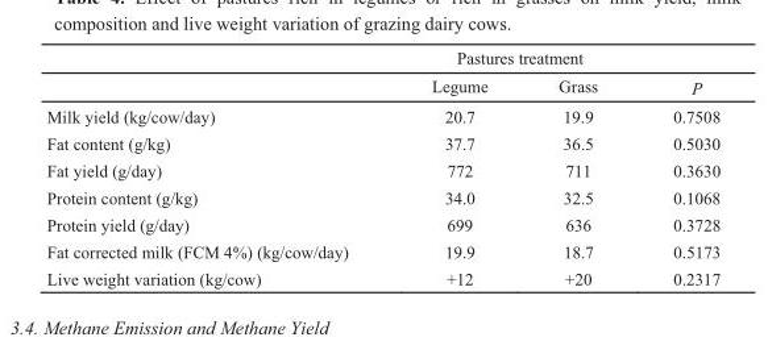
<table><thead><tr><td rowspan="2"></td><td colspan="2">Pastures treatment</td><td rowspan="2">P</td></tr><tr><td>Legume</td><td>Grass</td></tr></thead><tbody><tr><td>Milk yield (kg/cow/day)</td><td>20.7</td><td>19.9</td><td>0.7508</td></tr><tr><td>Fat content (g/kg)</td><td>37.7</td><td>36.5</td><td>0.5030</td></tr><tr><td>Fat yield (g/day)</td><td>772</td><td>711</td><td>0.3630</td></tr><tr><td>Protein content (g/kg)</td><td>34.0</td><td>32.5</td><td>0.1068</td></tr><tr><td>Protein yield (g/day)</td><td>699</td><td>636</td><td>0.3728</td></tr><tr><td>Fat corrected milk (FCM 4%) (kg/cow/day)</td><td>19.9</td><td>18.7</td><td>0.5173</td></tr><tr><td>Live weight variation (kg/cow)</td><td>+12</td><td>+20</td><td>0.2317</td></tr></tbody></table>